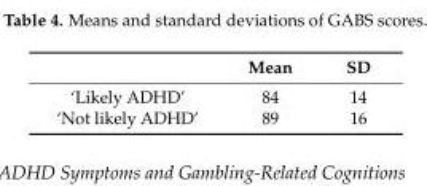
<table><thead><tr><td></td><td>Mean</td><td>SD</td></tr></thead><tbody><tr><td>‘Likely ADHD’</td><td>84</td><td>14</td></tr><tr><td>‘Not likely ADHD’</td><td>89</td><td>16</td></tr></tbody></table>